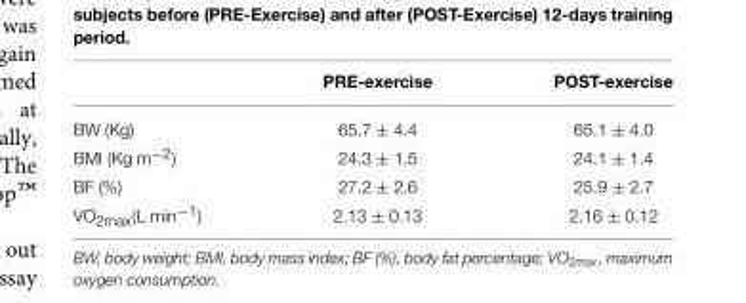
<table><thead><tr><td></td><td>PRE-exercise</td><td>POST-exercise</td></tr></thead><tbody><tr><td>BW (Kg)</td><td>65.7 ± 4.4</td><td>65.1 ± 4.0</td></tr><tr><td>BMI (Kg m<sup>−2</sup>)</td><td>24.3 ± 1.5</td><td>24.1 ± 1.4</td></tr><tr><td>BF (%)</td><td>27.2 ± 2.6</td><td>25.9 ± 2.7</td></tr><tr><td>VO<sub>2max</sub>(L min<sup>−1</sup>)</td><td>2.13 ± 0.13</td><td>2.16 ± 0.12</td></tr></tbody></table>